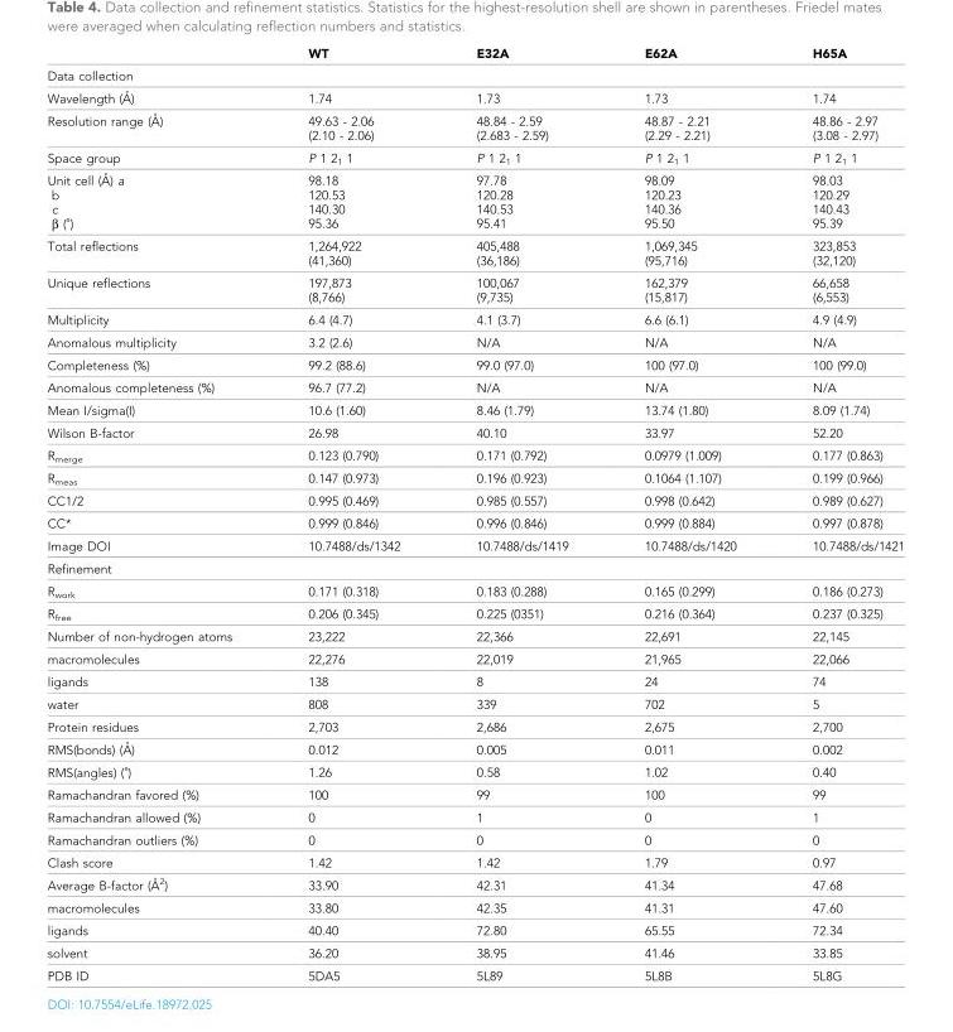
<table><thead><tr><td></td><td>WT</td><td>E32A</td><td>E62A</td><td>H65A</td></tr></thead><tbody><tr><td colspan="5">Data collection</td></tr><tr><td>Wavelength (A˚ )</td><td>1.74</td><td>1.73</td><td>1.73</td><td>1.74</td></tr><tr><td>Resolution range (A˚ )</td><td>49.63 - 2.06 (2.10 - 2.06)</td><td>48.84 - 2.59 (2.683 - 2.59)</td><td>48.87 - 2.21 (2.29 - 2.21)</td><td>48.86 - 2.97 (3.08 - 2.97)</td></tr><tr><td>Space group</td><td>P 1 2<sub>1</sub> 1</td><td>P 1 2<sub>1</sub> 1</td><td>P 1 2<sub>1</sub> 1</td><td>P 1 2<sub>1</sub> 1</td></tr><tr><td>Unit cell (A˚ ) a b c b (˚)</td><td>98.18 120.53 140.30 95.36</td><td>97.78 120.28 140.53 95.41</td><td>98.09 120.23 140.36 95.50</td><td>98.03 120.29 140.43 95.39</td></tr><tr><td>Total reflections</td><td>1,264,922 (41,360)</td><td>405,488 (36,186)</td><td>1,069,345 (95,716)</td><td>323,853 (32,120)</td></tr><tr><td>Unique reflections</td><td>197,873 (8,766)</td><td>100,067 (9,735)</td><td>162,379 (15,817)</td><td>66,658 (6,553)</td></tr><tr><td>Multiplicity</td><td>6.4 (4.7)</td><td>4.1 (3.7)</td><td>6.6 (6.1)</td><td>4.9 (4.9)</td></tr><tr><td>Anomalous multiplicity</td><td>3.2 (2.6)</td><td>N/A</td><td>N/A</td><td>N/A</td></tr><tr><td>Completeness (%)</td><td>99.2 (88.6)</td><td>99.0 (97.0)</td><td>100 (97.0)</td><td>100 (99.0)</td></tr><tr><td>Anomalous completeness (%)</td><td>96.7 (77.2)</td><td>N/A</td><td>N/A</td><td>N/A</td></tr><tr><td>Mean I/sigma(I)</td><td>10.6 (1.60)</td><td>8.46 (1.79)</td><td>13.74 (1.80)</td><td>8.09 (1.74)</td></tr><tr><td>Wilson B-factor</td><td>26.98</td><td>40.10</td><td>33.97</td><td>52.20</td></tr><tr><td>R<sub>merge</sub></td><td>0.123 (0.790)</td><td>0.171 (0.792)</td><td>0.0979 (1.009)</td><td>0.177 (0.863)</td></tr><tr><td>R<sub>meas</sub></td><td>0.147 (0.973)</td><td>0.196 (0.923)</td><td>0.1064 (1.107)</td><td>0.199 (0.966)</td></tr><tr><td>CC1/2</td><td>0.995 (0.469)</td><td>0.985 (0.557)</td><td>0.998 (0.642)</td><td>0.989 (0.627)</td></tr><tr><td>CC*</td><td>0.999 (0.846)</td><td>0.996 (0.846)</td><td>0.999 (0.884)</td><td>0.997 (0.878)</td></tr><tr><td>Image DOI</td><td>10.7488/ds/1342</td><td>10.7488/ds/1419</td><td>10.7488/ds/1420</td><td>10.7488/ds/1421</td></tr><tr><td colspan="5">Refinement</td></tr><tr><td>R<sub>work</sub></td><td>0.171 (0.318)</td><td>0.183 (0.288)</td><td>0.165 (0.299)</td><td>0.186 (0.273)</td></tr><tr><td>R<sub>free</sub></td><td>0.206 (0.345)</td><td>0.225 (0351)</td><td>0.216 (0.364)</td><td>0.237 (0.325)</td></tr><tr><td>Number of non-hydrogen atoms</td><td>23,222</td><td>22,366</td><td>22,691</td><td>22,145</td></tr><tr><td>macromolecules</td><td>22,276</td><td>22,019</td><td>21,965</td><td>22,066</td></tr><tr><td>ligands</td><td>138</td><td>8</td><td>24</td><td>74</td></tr><tr><td>water</td><td>808</td><td>339</td><td>702</td><td>5</td></tr><tr><td>Protein residues</td><td>2,703</td><td>2,686</td><td>2,675</td><td>2,700</td></tr><tr><td>RMS(bonds) (A˚ )</td><td>0.012</td><td>0.005</td><td>0.011</td><td>0.002</td></tr><tr><td>RMS(angles) (˚)</td><td>1.26</td><td>0.58</td><td>1.02</td><td>0.40</td></tr><tr><td>Ramachandran favored (%)</td><td>100</td><td>99</td><td>100</td><td>99</td></tr><tr><td>Ramachandran allowed (%)</td><td>0</td><td>1</td><td>0</td><td>1</td></tr><tr><td>Ramachandran outliers (%)</td><td>0</td><td>0</td><td>0</td><td>0</td></tr><tr><td>Clash score</td><td>1.42</td><td>1.42</td><td>1.79</td><td>0.97</td></tr><tr><td>Average B-factor (A˚ 2)</td><td>33.90</td><td>42.31</td><td>41.34</td><td>47.68</td></tr><tr><td>macromolecules</td><td>33.80</td><td>42.35</td><td>41.31</td><td>47.60</td></tr><tr><td>ligands</td><td>40.40</td><td>72.80</td><td>65.55</td><td>72.34</td></tr><tr><td>solvent</td><td>36.20</td><td>38.95</td><td>41.46</td><td>33.85</td></tr><tr><td>PDB ID</td><td>5DA5</td><td>5L89</td><td>5L8B</td><td>5L8G</td></tr></tbody></table>